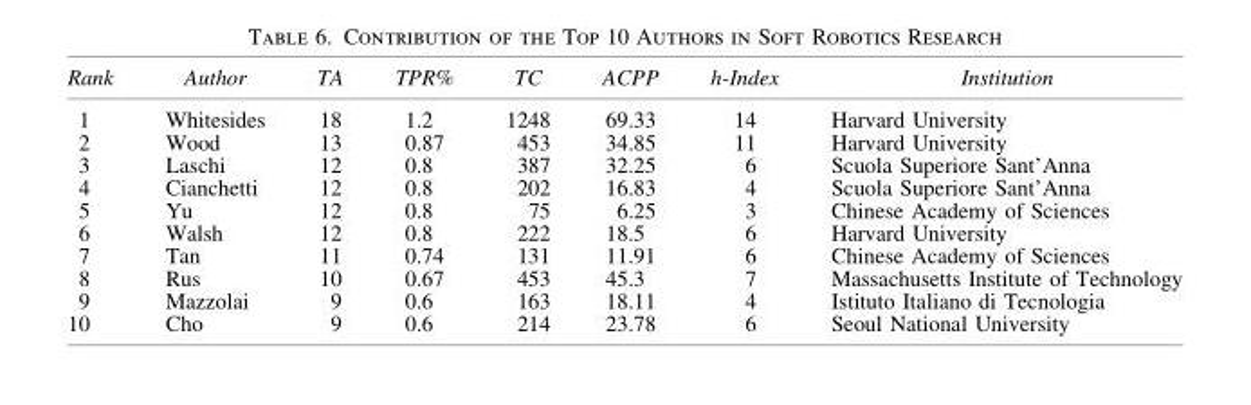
<table><thead><tr><td>Rank</td><td>Author</td><td>TA</td><td>TPR%</td><td>TC</td><td>ACPP</td><td>h-Index</td><td>Institution</td></tr></thead><tbody><tr><td>1</td><td>Whitesides</td><td>18</td><td>1.2</td><td>1248</td><td>69.33</td><td>14</td><td>Harvard University</td></tr><tr><td>2</td><td>Wood</td><td>13</td><td>0.87</td><td>453</td><td>34.85</td><td>11</td><td>Harvard University</td></tr><tr><td>3</td><td>Laschi</td><td>12</td><td>0.8</td><td>387</td><td>32.25</td><td>6</td><td>Scuola Superiore Sant’Anna</td></tr><tr><td>4</td><td>Cianchetti</td><td>12</td><td>0.8</td><td>202</td><td>16.83</td><td>4</td><td>Scuola Superiore Sant’Anna</td></tr><tr><td>5</td><td>Yu</td><td>12</td><td>0.8</td><td>75</td><td>6.25</td><td>3</td><td>Chinese Academy of Sciences</td></tr><tr><td>6</td><td>Walsh</td><td>12</td><td>0.8</td><td>222</td><td>18.5</td><td>6</td><td>Harvard University</td></tr><tr><td>7</td><td>Tan</td><td>11</td><td>0.74</td><td>131</td><td>11.91</td><td>6</td><td>Chinese Academy of Sciences</td></tr><tr><td>8</td><td>Rus</td><td>10</td><td>0.67</td><td>453</td><td>45.3</td><td>7</td><td>Massachusetts Institute of Technology</td></tr><tr><td>9</td><td>Mazzolai</td><td>9</td><td>0.6</td><td>163</td><td>18.11</td><td>4</td><td>Istituto Italiano di Tecnologia</td></tr><tr><td>10</td><td>Cho</td><td>9</td><td>0.6</td><td>214</td><td>23.78</td><td>6</td><td>Seoul National University</td></tr></tbody></table>